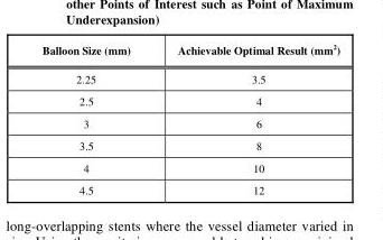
<table><thead><tr><td>Balloon Size (mm)</td><td>Achievable Optimal Result (mm<sup>2</sup>)</td></tr></thead><tbody><tr><td>2.25</td><td>3.5</td></tr><tr><td>2.5</td><td>4</td></tr><tr><td>3</td><td>6</td></tr><tr><td>3.5</td><td>8</td></tr><tr><td>4</td><td>10</td></tr><tr><td>4.5</td><td>12</td></tr></tbody></table>